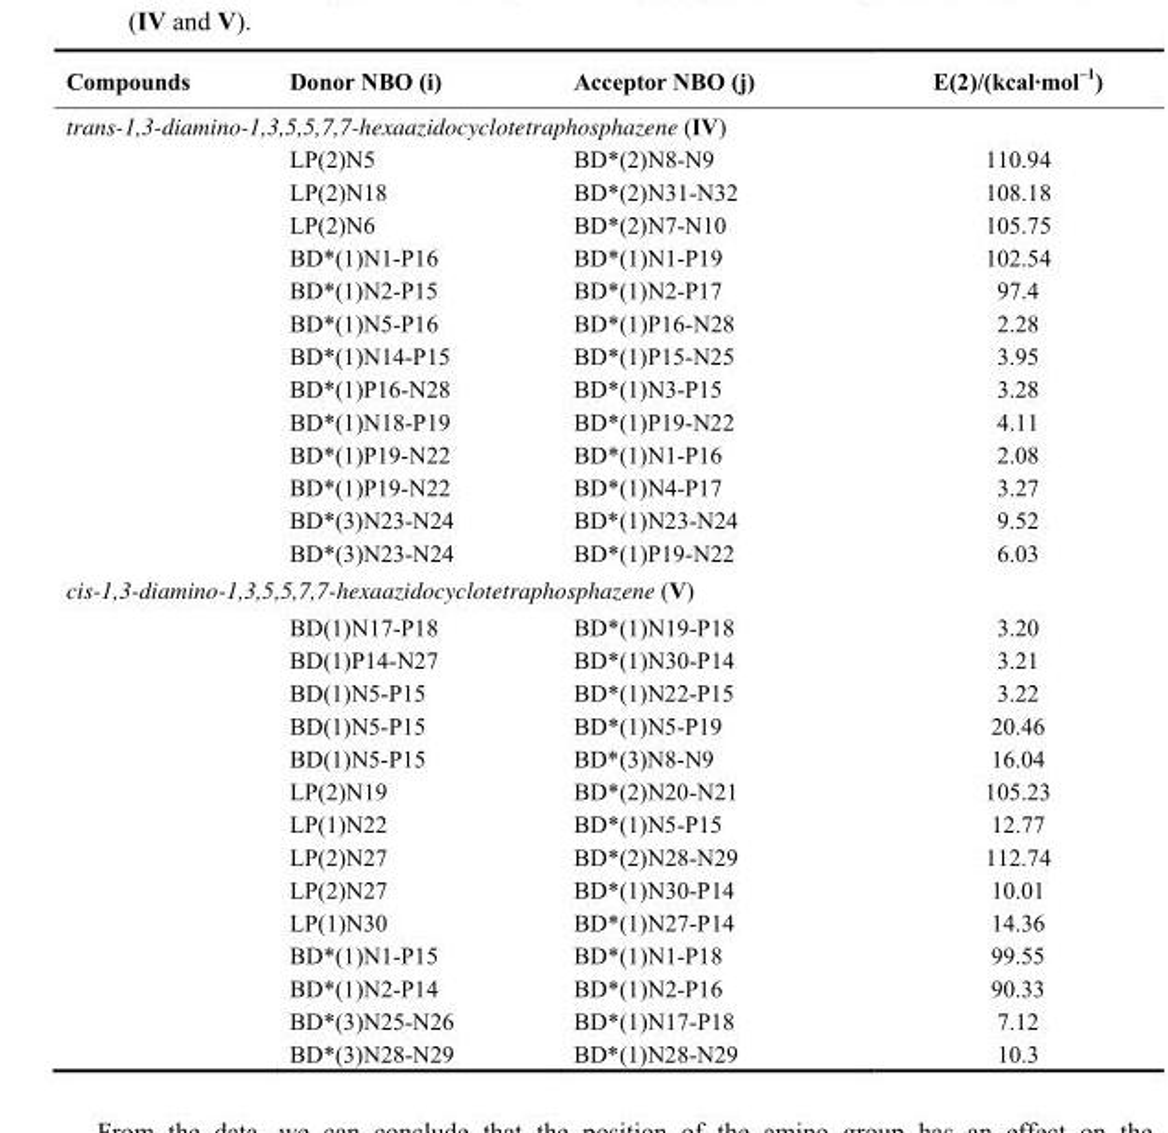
<table><thead><tr><td>Compounds</td><td>Donor NBO (i)</td><td>Acceptor NBO (j)</td><td>E(2)/(kcal·mol<sup>–1</sup>)</td></tr></thead><tbody><tr><td colspan="4">trans-1,3-diamino-1,3,5,5,7,7-hexaazidocyclotetraphosphazene (IV)</td></tr><tr><td></td><td>LP(2)N5</td><td>BD*(2)N8-N9</td><td>110.94</td></tr><tr><td></td><td>LP(2)N18</td><td>BD*(2)N31-N32</td><td>108.18</td></tr><tr><td></td><td>LP(2)N6</td><td>BD*(2)N7-N10</td><td>105.75</td></tr><tr><td></td><td>BD*(1)N1-P16</td><td>BD*(1)N1-P19</td><td>102.54</td></tr><tr><td></td><td>BD*(1)N2-P15</td><td>BD*(1)N2-P17</td><td>97.4</td></tr><tr><td></td><td>BD*(1)N5-P16</td><td>BD*(1)P16-N28</td><td>2.28</td></tr><tr><td></td><td>BD*(1)N14-P15</td><td>BD*(1)P15-N25</td><td>3.95</td></tr><tr><td></td><td>BD*(1)P16-N28</td><td>BD*(1)N3-P15</td><td>3.28</td></tr><tr><td></td><td>BD*(1)N18-P19</td><td>BD*(1)P19-N22</td><td>4.11</td></tr><tr><td></td><td>BD*(1)P19-N22</td><td>BD*(1)N1-P16</td><td>2.08</td></tr><tr><td></td><td>BD*(1)P19-N22</td><td>BD*(1)N4-P17</td><td>3.27</td></tr><tr><td></td><td>BD*(3)N23-N24</td><td>BD*(1)N23-N24</td><td>9.52</td></tr><tr><td></td><td>BD*(3)N23-N24</td><td>BD*(1)P19-N22</td><td>6.03</td></tr><tr><td colspan="4">cis-1,3-diamino-1,3,5,5,7,7-hexaazidocyclotetraphosphazene (V)</td></tr><tr><td></td><td>BD(1)N17-P18</td><td>BD*(1)N19-P18</td><td>3.20</td></tr><tr><td></td><td>BD(1)P14-N27</td><td>BD*(1)N30-P14</td><td>3.21</td></tr><tr><td></td><td>BD(1)N5-P15</td><td>BD*(1)N22-P15</td><td>3.22</td></tr><tr><td></td><td>BD(1)N5-P15</td><td>BD*(1)N5-P19</td><td>20.46</td></tr><tr><td></td><td>BD(1)N5-P15</td><td>BD*(3)N8-N9</td><td>16.04</td></tr><tr><td></td><td>LP(2)N19</td><td>BD*(2)N20-N21</td><td>105.23</td></tr><tr><td></td><td>LP(1)N22</td><td>BD*(1)N5-P15</td><td>12.77</td></tr><tr><td></td><td>LP(2)N27</td><td>BD*(2)N28-N29</td><td>112.74</td></tr><tr><td></td><td>LP(2)N27</td><td>BD*(1)N30-P14</td><td>10.01</td></tr><tr><td></td><td>LP(1)N30</td><td>BD*(1)N27-P14</td><td>14.36</td></tr><tr><td></td><td>BD*(1)N1-P15</td><td>BD*(1)N1-P18</td><td>99.55</td></tr><tr><td></td><td>BD*(1)N2-P14</td><td>BD*(1)N2-P16</td><td>90.33</td></tr><tr><td></td><td>BD*(3)N25-N26</td><td>BD*(1)N17-P18</td><td>7.12</td></tr><tr><td></td><td>BD*(3)N28-N29</td><td>BD*(1)N28-N29</td><td>10.3</td></tr></tbody></table>